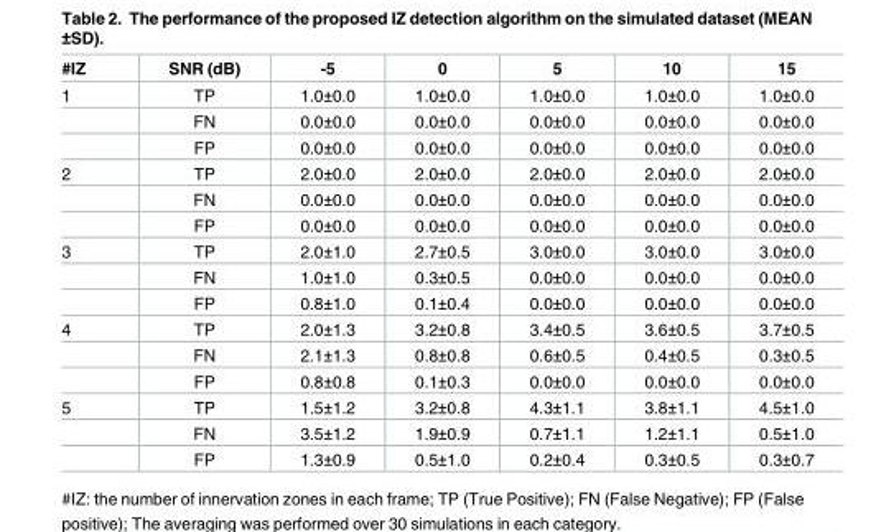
<table><thead><tr><td>#IZ</td><td>SNR (dB)</td><td>-5</td><td>0</td><td>5</td><td>10</td><td>15</td></tr></thead><tbody><tr><td rowspan="3">1</td><td>TP</td><td>1.0±0.0</td><td>1.0±0.0</td><td>1.0±0.0</td><td>1.0±0.0</td><td>1.0±0.0</td></tr><tr><td>FN</td><td>0.0±0.0</td><td>0.0±0.0</td><td>0.0±0.0</td><td>0.0±0.0</td><td>0.0±0.0</td></tr><tr><td>FP</td><td>0.0±0.0</td><td>0.0±0.0</td><td>0.0±0.0</td><td>0.0±0.0</td><td>0.0±0.0</td></tr><tr><td rowspan="3">2</td><td>TP</td><td>2.0±0.0</td><td>2.0±0.0</td><td>2.0±0.0</td><td>2.0±0.0</td><td>2.0±0.0</td></tr><tr><td>FN</td><td>0.0±0.0</td><td>0.0±0.0</td><td>0.0±0.0</td><td>0.0±0.0</td><td>0.0±0.0</td></tr><tr><td>FP</td><td>0.0±0.0</td><td>0.0±0.0</td><td>0.0±0.0</td><td>0.0±0.0</td><td>0.0±0.0</td></tr><tr><td rowspan="3">3</td><td>TP</td><td>2.0±1.0</td><td>2.7±0.5</td><td>3.0±0.0</td><td>3.0±0.0</td><td>3.0±0.0</td></tr><tr><td>FN</td><td>1.0±1.0</td><td>0.3±0.5</td><td>0.0±0.0</td><td>0.0±0.0</td><td>0.0±0.0</td></tr><tr><td>FP</td><td>0.8±1.0</td><td>0.1±0.4</td><td>0.0±0.0</td><td>0.0±0.0</td><td>0.0±0.0</td></tr><tr><td rowspan="3">4</td><td>TP</td><td>2.0±1.3</td><td>3.2±0.8</td><td>3.4±0.5</td><td>3.6±0.5</td><td>3.7±0.5</td></tr><tr><td>FN</td><td>2.1±1.3</td><td>0.8±0.8</td><td>0.6±0.5</td><td>0.4±0.5</td><td>0.3±0.5</td></tr><tr><td>FP</td><td>0.8±0.8</td><td>0.1±0.3</td><td>0.0±0.0</td><td>0.0±0.0</td><td>0.0±0.0</td></tr><tr><td rowspan="3">5</td><td>TP</td><td>1.5±1.2</td><td>3.2±0.8</td><td>4.3±1.1</td><td>3.8±1.1</td><td>4.5±1.0</td></tr><tr><td>FN</td><td>3.5±1.2</td><td>1.9±0.9</td><td>0.7±1.1</td><td>1.2±1.1</td><td>0.5±1.0</td></tr><tr><td>FP</td><td>1.3±0.9</td><td>0.5±1.0</td><td>0.2±0.4</td><td>0.3±0.5</td><td>0.3±0.7</td></tr></tbody></table>